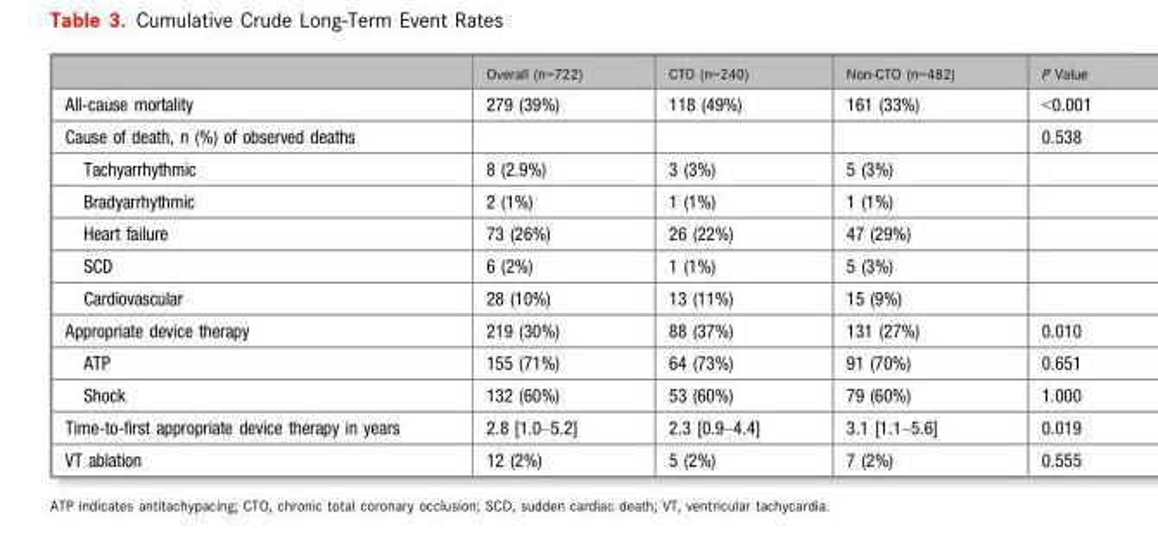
<table><thead><tr><td></td><td>Overall (n=722)</td><td>CTO (n=240)</td><td>Non-CTO (n=482)</td><td>P Value</td></tr></thead><tbody><tr><td>All-cause mortality</td><td>279 (39%)</td><td>118 (49%)</td><td>161 (33%)</td><td>&lt;0.001</td></tr><tr><td>Cause of death, n (%) of observed deaths</td><td></td><td></td><td></td><td>0.538</td></tr><tr><td>Tachyarrhythmic</td><td>8 (2.9%)</td><td>3 (3%)</td><td>5 (3%)</td><td></td></tr><tr><td>Bradyarrhythmic</td><td>2 (1%)</td><td>1 (1%)</td><td>1 (1%)</td><td></td></tr><tr><td>Heart failure</td><td>73 (26%)</td><td>26 (22%)</td><td>47 (29%)</td><td></td></tr><tr><td>SCD</td><td>6 (2%)</td><td>1 (1%)</td><td>5 (3%)</td><td></td></tr><tr><td>Cardiovascular</td><td>28 (10%)</td><td>13 (11%)</td><td>15 (9%)</td><td></td></tr><tr><td>Appropriate device therapy</td><td>219 (30%)</td><td>88 (37%)</td><td>131 (27%)</td><td>0.010</td></tr><tr><td>ATP</td><td>155 (71%)</td><td>64 (73%)</td><td>91 (70%)</td><td>0.651</td></tr><tr><td>Shock</td><td>132 (60%)</td><td>53 (60%)</td><td>79 (60%)</td><td>1.000</td></tr><tr><td>Time-to-first appropriate device therapy in years</td><td>2.8 [1.0–5.2]</td><td>2.3 [0.9–4.4]</td><td>3.1 [1.1–5.6]</td><td>0.019</td></tr><tr><td>VT ablation</td><td>12 (2%)</td><td>5 (2%)</td><td>7 (2%)</td><td>0.555</td></tr></tbody></table>